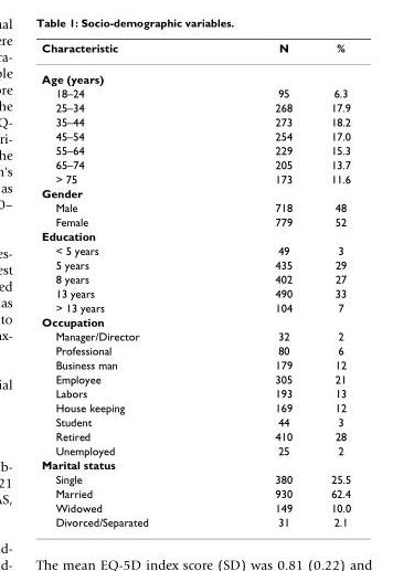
<table><thead><tr><td>Characteristic</td><td>N</td><td>%</td></tr></thead><tbody><tr><td colspan="3">Age (years)</td></tr><tr><td>18–24</td><td>95</td><td>6.3</td></tr><tr><td>25–34</td><td>268</td><td>17.9</td></tr><tr><td>35–44</td><td>273</td><td>18.2</td></tr><tr><td>45–54</td><td>254</td><td>17.0</td></tr><tr><td>55–64</td><td>229</td><td>15.3</td></tr><tr><td>65–74</td><td>205</td><td>13.7</td></tr><tr><td>&gt; 75</td><td>173</td><td>11.6</td></tr><tr><td colspan="3">Gender</td></tr><tr><td>Male</td><td>718</td><td>48</td></tr><tr><td>Female</td><td>779</td><td>52</td></tr><tr><td colspan="3">Education</td></tr><tr><td>&lt; 5 years</td><td>49</td><td>3</td></tr><tr><td>5 years</td><td>435</td><td>29</td></tr><tr><td>8 years</td><td>402</td><td>27</td></tr><tr><td>13 years</td><td>490</td><td>33</td></tr><tr><td>&gt; 13 years</td><td>104</td><td>7</td></tr><tr><td colspan="3">Occupation</td></tr><tr><td>Manager/Director</td><td>32</td><td>2</td></tr><tr><td>Professional</td><td>80</td><td>6</td></tr><tr><td>Business man</td><td>179</td><td>12</td></tr><tr><td>Employee</td><td>305</td><td>21</td></tr><tr><td>Labors</td><td>193</td><td>13</td></tr><tr><td>House keeping</td><td>169</td><td>12</td></tr><tr><td>Student</td><td>44</td><td>3</td></tr><tr><td>Retired</td><td>410</td><td>28</td></tr><tr><td>Unemployed</td><td>25</td><td>2</td></tr><tr><td colspan="3">Marital status</td></tr><tr><td>Single</td><td>380</td><td>25.5</td></tr><tr><td>Married</td><td>930</td><td>62.4</td></tr><tr><td>Widowed</td><td>149</td><td>10.0</td></tr><tr><td>Divorced/Separated</td><td>31</td><td>2.1</td></tr></tbody></table>